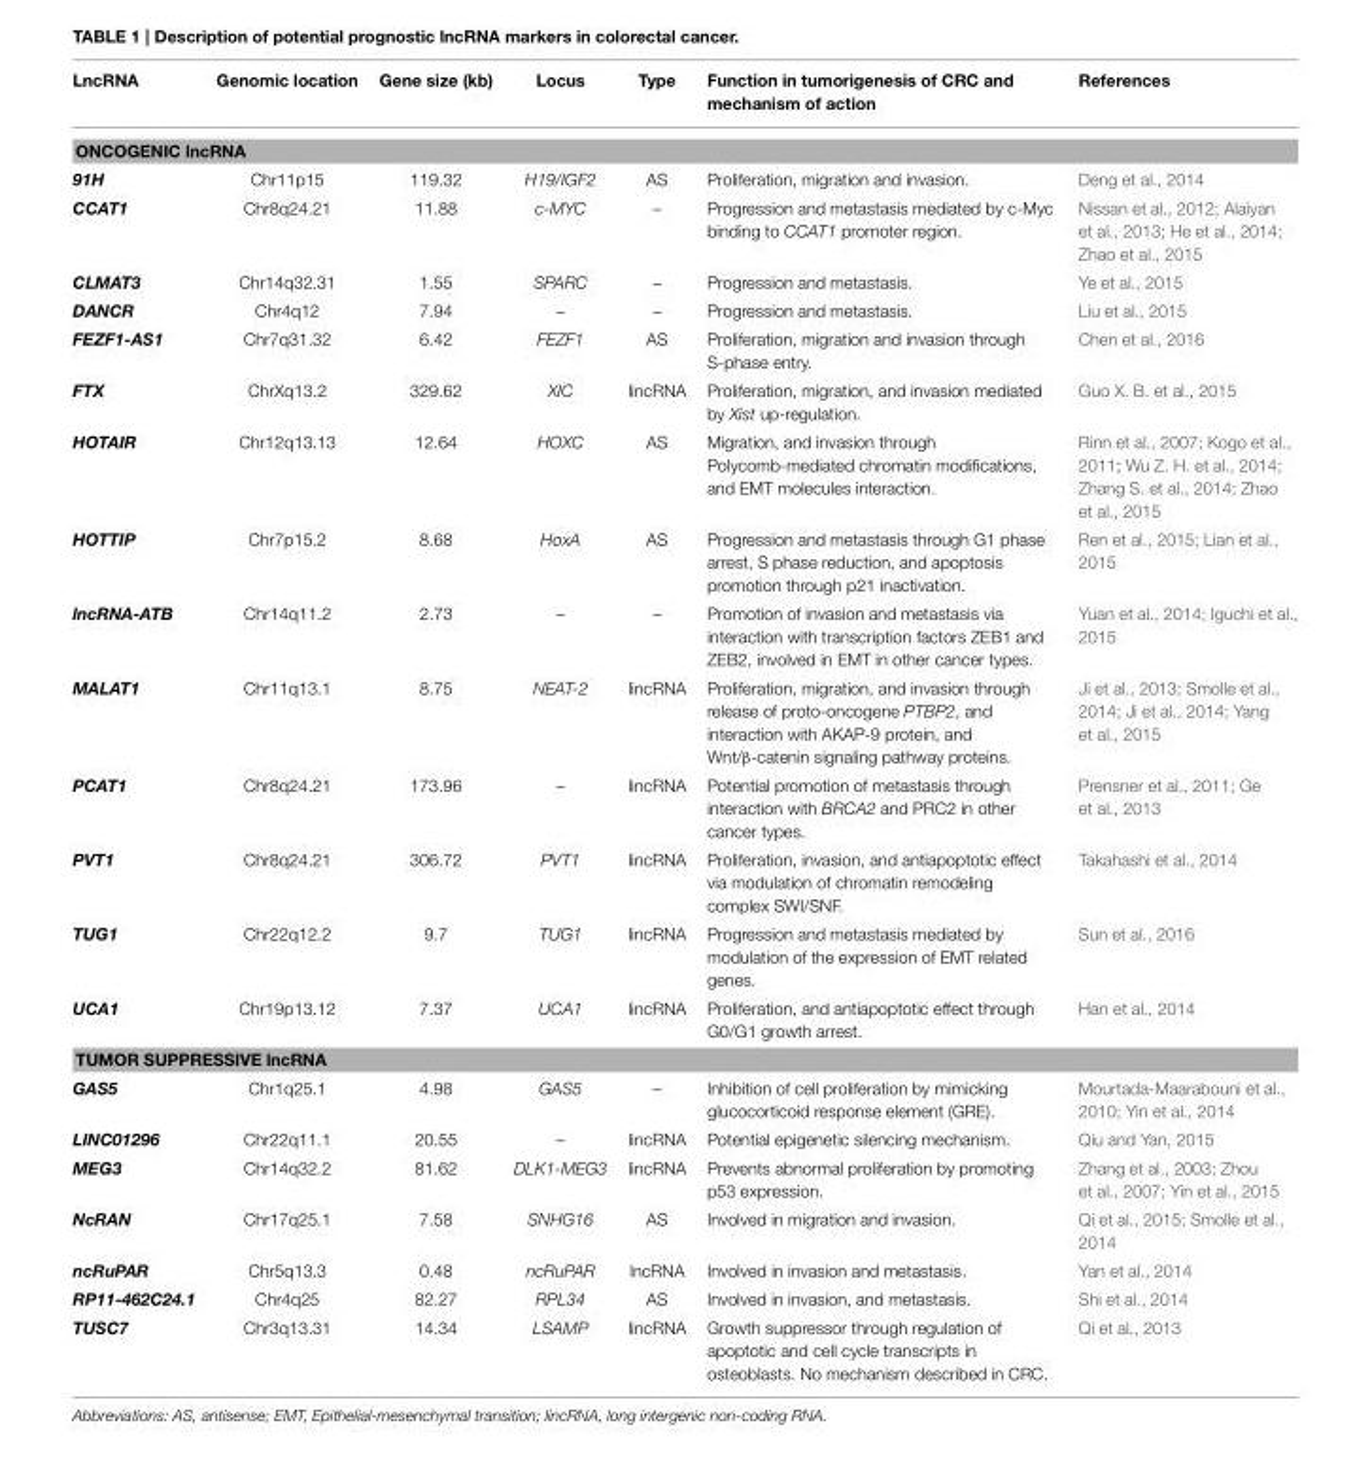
<table><thead><tr><td>LncRNA</td><td>Genomic location</td><td>Gene size (kb)</td><td>Locus</td><td>Type</td><td>Function in tumorigenesis of CRC and mechanism of action</td><td>References</td></tr></thead><tbody><tr><td colspan="7">ONCOGENIC lncRNA</td></tr><tr><td>91H</td><td>Chr11p15</td><td>119.32</td><td>H19/IGF2</td><td>AS</td><td>Proliferation, migration and invasion.</td><td>Deng et al., 2014</td></tr><tr><td>CCAT1</td><td>Chr8q24.21</td><td>11.88</td><td>c-MYC</td><td>–</td><td>Progression and metastasis mediated by c-Myc binding to CCAT1 promoter region.</td><td>Nissan et al., 2012; Alaiyan et al., 2013; He et al., 2014; Zhao et al., 2015</td></tr><tr><td>CLMAT3</td><td>Chr14q32.31</td><td>1.55</td><td>SPARC</td><td>–</td><td>Progression and metastasis.</td><td>Ye et al., 2015</td></tr><tr><td>DANCR</td><td>Chr4q12</td><td>7.94</td><td>–</td><td>–</td><td>Progression and metastasis.</td><td>Liu et al., 2015</td></tr><tr><td>FEZF1-AS1</td><td>Chr7q31.32</td><td>6.42</td><td>FEZF1</td><td>AS</td><td>Proliferation, migration and invasion through S-phase entry.</td><td>Chen et al., 2016</td></tr><tr><td>FTX</td><td>ChrXq13.2</td><td>329.62</td><td>XIC</td><td>lincRNA</td><td>Proliferation, migration, and invasion mediated by Xist up-regulation.</td><td>Guo X. B. et al., 2015</td></tr><tr><td>HOTAIR</td><td>Chr12q13.13</td><td>12.64</td><td>HOXC</td><td>AS</td><td>Migration, and invasion through Polycomb-mediated chromatin modifications, and EMT molecules interaction.</td><td>Rinn et al., 2007; Kogo et al., 2011; Wu Z. H. et al., 2014; Zhang S. et al., 2014; Zhao et al., 2015</td></tr><tr><td>HOTTIP</td><td>Chr7p15.2</td><td>8.68</td><td>HoxA</td><td>AS</td><td>Progression and metastasis through G1 phase arrest, S phase reduction, and apoptosis promotion through p21 inactivation.</td><td>Ren et al., 2015; Lian et al., 2015</td></tr><tr><td>lncRNA-ATB</td><td>Chr14q11.2</td><td>2.73</td><td>–</td><td>–</td><td>Promotion of invasion and metastasis via interaction with transcription factors ZEB1 and ZEB2, involved in EMT in other cancer types.</td><td>Yuan et al., 2014; Iguchi et al., 2015</td></tr><tr><td>MALAT1</td><td>Chr11q13.1</td><td>8.75</td><td>NEAT-2</td><td>lincRNA</td><td>Proliferation, migration, and invasion through release of proto-oncogene PTBP2, and interaction with AKAP-9 protein, and Wnt/β-catenin signaling pathway proteins.</td><td>Ji et al., 2013; Smolle et al., 2014; Ji et al., 2014; Yang et al., 2015</td></tr><tr><td>PCAT1</td><td>Chr8q24.21</td><td>173.96</td><td>–</td><td>lincRNA</td><td>Potential promotion of metastasis through interaction with BRCA2 and PRC2 in other cancer types.</td><td>Prensner et al., 2011; Ge et al., 2013</td></tr><tr><td>PVT1</td><td>Chr8q24.21</td><td>306.72</td><td>PVT1</td><td>lincRNA</td><td>Proliferation, invasion, and antiapoptotic effect via modulation of chromatin remodeling complex SWI/SNF.</td><td>Takahashi et al., 2014</td></tr><tr><td>TUG1</td><td>Chr22q12.2</td><td>9.7</td><td>TUG1</td><td>lincRNA</td><td>Progression and metastasis mediated by modulation of the expression of EMT related genes.</td><td>Sun et al., 2016</td></tr><tr><td>UCA1</td><td>Chr19p13.12</td><td>7.37</td><td>UCA1</td><td>lincRNA</td><td>Proliferation, and antiapoptotic effect through G0/G1 growth arrest.</td><td>Han et al., 2014</td></tr><tr><td colspan="7">TUMOR SUPPRESSIVE lncRNA</td></tr><tr><td>GAS5</td><td>Chr1q25.1</td><td>4.98</td><td>GAS5</td><td>–</td><td>Inhibition of cell proliferation by mimicking glucocorticoid response element (GRE).</td><td>Mourtada-Maarabouni et al., 2010; Yin et al., 2014</td></tr><tr><td>LINC01296</td><td>Chr22q11.1</td><td>20.55</td><td>–</td><td>lincRNA</td><td>Potential epigenetic silencing mechanism.</td><td>Qiu and Yan, 2015</td></tr><tr><td>MEG3</td><td>Chr14q32.2</td><td>81.62</td><td>DLK1-MEG3</td><td>lincRNA</td><td>Prevents abnormal proliferation by promoting p53 expression.</td><td>Zhang et al., 2003; Zhou et al., 2007; Yin et al., 2015</td></tr><tr><td>NcRAN</td><td>Chr17q25.1</td><td>7.58</td><td>SNHG16</td><td>AS</td><td>Involved in migration and invasion.</td><td>Qi et al., 2015; Smolle et al., 2014</td></tr><tr><td>ncRuPAR</td><td>Chr5q13.3</td><td>0.48</td><td>ncRuPAR</td><td>lncRNA</td><td>Involved in invasion and metastasis.</td><td>Yan et al., 2014</td></tr><tr><td>RP11-462C24.1</td><td>Chr4q25</td><td>82.27</td><td>RPL34</td><td>AS</td><td>Involved in invasion, and metastasis.</td><td>Shi et al., 2014</td></tr><tr><td>TUSC7</td><td>Chr3q13.31</td><td>14.34</td><td>LSAMP</td><td>lincRNA</td><td>Growth suppressor through regulation of apoptotic and cell cycle transcripts in osteoblasts. No mechanism described in CRC.</td><td>Qi et al., 2013</td></tr></tbody></table>